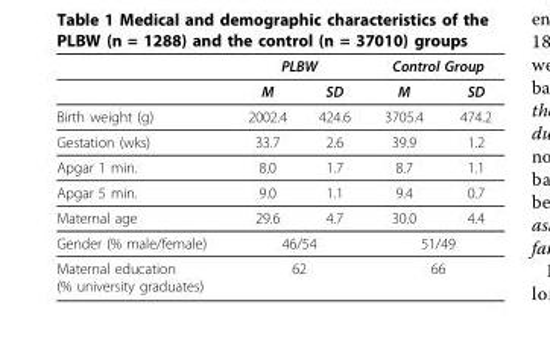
<table><thead><tr><td rowspan="2"></td><td colspan="2">PLBW</td><td colspan="2">Control Group</td></tr><tr><td>M</td><td>SD</td><td>M</td><td>SD</td></tr></thead><tbody><tr><td>Birth weight (g)</td><td>2002.4</td><td>424.6</td><td>3705.4</td><td>474.2</td></tr><tr><td>Gestation (wks)</td><td>33.7</td><td>2.6</td><td>39.9</td><td>1.2</td></tr><tr><td>Apgar 1 min.</td><td>8.0</td><td>1.7</td><td>8.7</td><td>1.1</td></tr><tr><td>Apgar 5 min.</td><td>9.0</td><td>1.1</td><td>9.4</td><td>0.7</td></tr><tr><td>Maternal age</td><td>29.6</td><td>4.7</td><td>30.0</td><td>4.4</td></tr><tr><td>Gender (% male/female)</td><td colspan="2">46/54</td><td colspan="2">51/49</td></tr><tr><td>Maternal education (% university graduates)</td><td colspan="2">62</td><td colspan="2">66</td></tr></tbody></table>